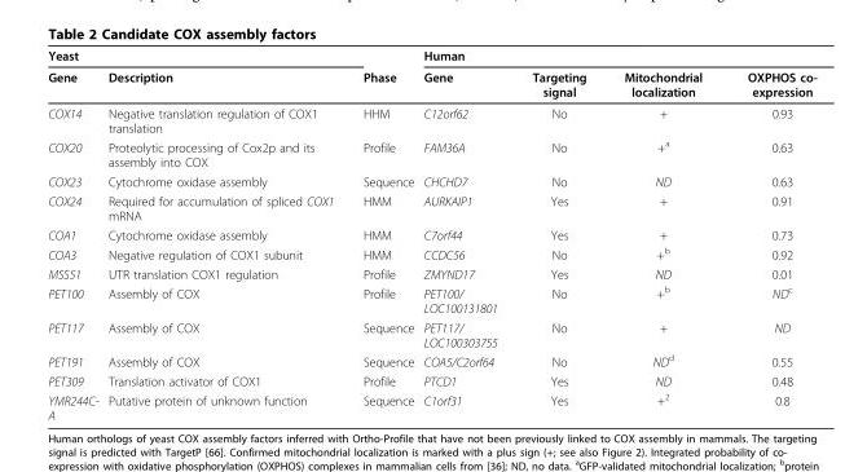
<table><thead><tr><td rowspan="2">Yeast Gene</td><td rowspan="2">Description</td><td rowspan="2">Phase</td><td rowspan="2">Human Gene</td><td rowspan="2">Targeting signal</td><td rowspan="2">Mitochondrial localization</td><td rowspan="2">OXPHOS co- expression</td></tr><tr></tr></thead><tbody><tr><td>COX14</td><td>Negative translation regulation of COX1 translation</td><td>HHM</td><td>C12orf62</td><td>No</td><td>+</td><td>0.93</td></tr><tr><td>COX20</td><td>Proteolytic processing of Cox2p and its assembly into COX</td><td>Profile</td><td>FAM36A</td><td>No</td><td>+<sup>a</sup></td><td>0.63</td></tr><tr><td>COX23</td><td>Cytochrome oxidase assembly</td><td>Sequence</td><td>CHCHD7</td><td>No</td><td>ND</td><td>0.63</td></tr><tr><td>COX24</td><td>Required for accumulation of spliced COX1 mRNA</td><td>HMM</td><td>AURKAIP1</td><td>Yes</td><td>+</td><td>0.91</td></tr><tr><td>COA1</td><td>Cytochrome oxidase assembly</td><td>HMM</td><td>C7orf44</td><td>Yes</td><td>+</td><td>0.73</td></tr><tr><td>COA3</td><td>Negative regulation of COX1 subunit</td><td>HMM</td><td>CCDC56</td><td>No</td><td>+<sup>b</sup></td><td>0.92</td></tr><tr><td>MSS51</td><td>UTR translation COX1 regulation</td><td>Profile</td><td>ZMYND17</td><td>Yes</td><td>ND</td><td>0.01</td></tr><tr><td>PET100</td><td>Assembly of COX</td><td>Profile</td><td>PET100/ LOC100131801</td><td>No</td><td>+<sup>b</sup></td><td>ND<sup>c</sup></td></tr><tr><td>PET117</td><td>Assembly of COX</td><td>Sequence</td><td>PET117/ LOC100303755</td><td>No</td><td>+</td><td>ND</td></tr><tr><td>PET191</td><td>Assembly of COX</td><td>Sequence</td><td>COA5/C2orf64</td><td>No</td><td>ND<sup>d</sup></td><td>0.55</td></tr><tr><td>PET309</td><td>Translation activator of COX1</td><td>Profile</td><td>PTCD1</td><td>Yes</td><td>ND</td><td>0.48</td></tr><tr><td>YMR244C- A</td><td>Putative protein of unknown function</td><td>Sequence</td><td>C1orf31</td><td>Yes</td><td>+<sup>2</sup></td><td>0.8</td></tr></tbody></table>